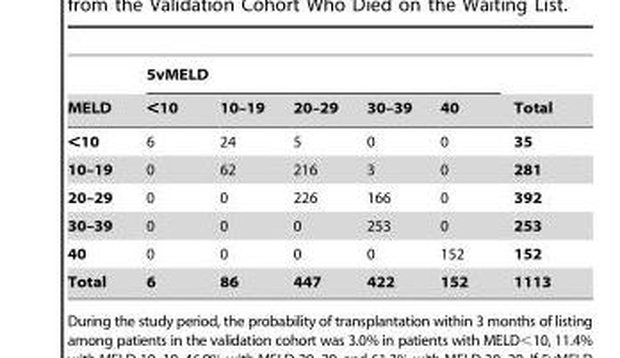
<table><thead><tr><td rowspan="2">MELD</td><td colspan="5">5vMELD</td><td rowspan="2">Total</td></tr><tr><td>&lt;10</td><td>10–19</td><td>20–29</td><td>30–39</td><td>40</td></tr></thead><tbody><tr><td>&lt;10</td><td>6</td><td>24</td><td>5</td><td>0</td><td>0</td><td>35</td></tr><tr><td>10–19</td><td>0</td><td>62</td><td>216</td><td>3</td><td>0</td><td>281</td></tr><tr><td>20–29</td><td>0</td><td>0</td><td>226</td><td>166</td><td>0</td><td>392</td></tr><tr><td>30–39</td><td>0</td><td>0</td><td>0</td><td>253</td><td>0</td><td>253</td></tr><tr><td>40</td><td>0</td><td>0</td><td>0</td><td>0</td><td>152</td><td>152</td></tr><tr><td>Total</td><td>6</td><td>86</td><td>447</td><td>422</td><td>152</td><td>1113</td></tr></tbody></table>